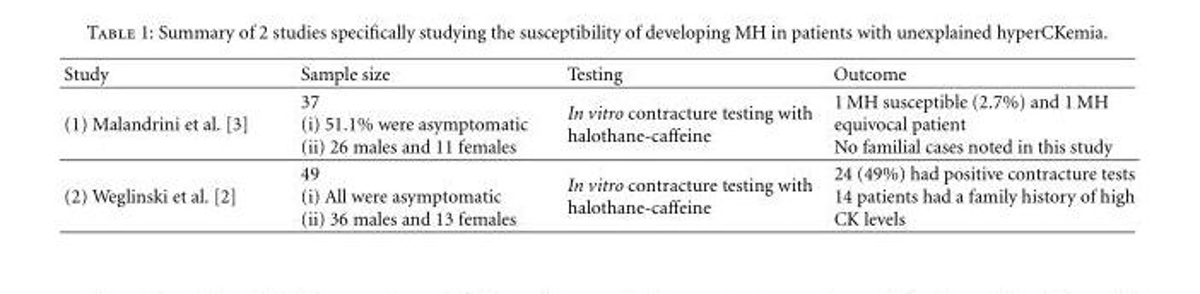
<table><thead><tr><td>Study</td><td>Sample size</td><td>Testing</td><td>Outcome</td></tr></thead><tbody><tr><td>(1) Malandrini et al. [3]</td><td>37 (i) 51.1% were asymptomatic (ii) 26 males and 11 females</td><td>In vitro contracture testing with halothane-caffeine</td><td>1 MH susceptible (2.7%) and 1 MH equivocal patient No familial cases noted in this study</td></tr><tr><td>(2) Weglinski et al. [2]</td><td>49 (i) All were asymptomatic (ii) 36 males and 13 females</td><td>In vitro contracture testing with halothane-caffeine</td><td>24 (49%) had positive contracture tests 14 patients had a family history of high CK levels</td></tr></tbody></table>